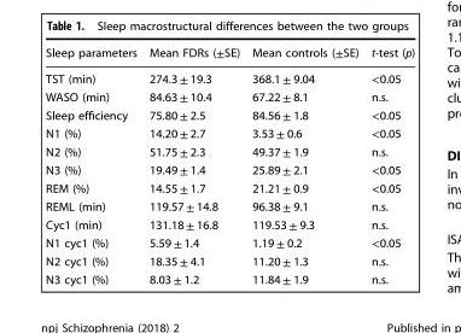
<table><thead><tr><td>Sleep parameters</td><td>Mean FDRs (±SE)</td><td>Mean controls (±SE)</td><td>t-test (p)</td></tr></thead><tbody><tr><td>TST (min)</td><td>274.3 ± 19.3</td><td>368.1 ± 9.04</td><td>&lt;0.05</td></tr><tr><td>WASO (min)</td><td>84.63 ± 10.4</td><td>67.22 ± 8.1</td><td>n.s.</td></tr><tr><td>Sleep efficiency</td><td>75.80 ± 2.5</td><td>84.56 ± 1.8</td><td>&lt;0.05</td></tr><tr><td>N1 (%)</td><td>14.20 ± 2.7</td><td>3.53 ± 0.6</td><td>&lt;0.05</td></tr><tr><td>N2 (%)</td><td>51.75 ± 2.3</td><td>49.37 ± 1.9</td><td>n.s.</td></tr><tr><td>N3 (%)</td><td>19.49 ± 1.4</td><td>25.89 ± 2.1</td><td>&lt;0.05</td></tr><tr><td>REM (%)</td><td>14.55 ± 1.7</td><td>21.21 ± 0.9</td><td>&lt;0.05</td></tr><tr><td>REML (min)</td><td>119.57 ± 14.8</td><td>96.38 ± 9.1</td><td>n.s.</td></tr><tr><td>Cyc1 (min)</td><td>131.18 ± 16.8</td><td>119.53 ± 9.3</td><td>n.s.</td></tr><tr><td>N1 cyc1 (%)</td><td>5.59 ± 1.4</td><td>1.19 ± 0.2</td><td>&lt;0.05</td></tr><tr><td>N2 cyc1 (%)</td><td>18.35 ± 4.1</td><td>11.20 ± 1.3</td><td>n.s.</td></tr><tr><td>N3 cyc1 (%)</td><td>8.03 ± 1.2</td><td>11.84 ± 1.9</td><td>n.s.</td></tr></tbody></table>